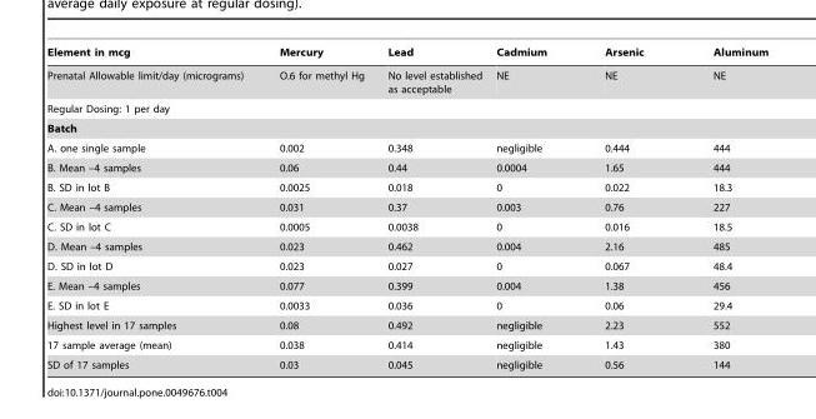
<table><thead><tr><td>Element in mcg</td><td>Mercury</td><td>Lead</td><td>Cadmium</td><td>Arsenic</td><td>Aluminum</td></tr></thead><tbody><tr><td>Prenatal Allowable limit/day (micrograms)</td><td>O.6 for methyl Hg</td><td>No level established as acceptable</td><td>NE</td><td>NE</td><td>NE</td></tr><tr><td colspan="6">Regular Dosing: 1 per day</td></tr><tr><td colspan="6">Batch</td></tr><tr><td>A. one single sample</td><td>0.002</td><td>0.348</td><td>negligible</td><td>0.444</td><td>444</td></tr><tr><td>B. Mean –4 samples</td><td>0.06</td><td>0.44</td><td>0.0004</td><td>1.65</td><td>444</td></tr><tr><td>B. SD in lot B</td><td>0.0025</td><td>0.018</td><td>0</td><td>0.022</td><td>18.3</td></tr><tr><td>C. Mean –4 samples</td><td>0.031</td><td>0.37</td><td>0.003</td><td>0.76</td><td>227</td></tr><tr><td>C. SD in lot C</td><td>0.0005</td><td>0.0038</td><td>0</td><td>0.016</td><td>18.5</td></tr><tr><td>D. Mean –4 samples</td><td>0.023</td><td>0.462</td><td>0.004</td><td>2.16</td><td>485</td></tr><tr><td>D. SD in lot D</td><td>0.023</td><td>0.027</td><td>0</td><td>0.067</td><td>48.4</td></tr><tr><td>E. Mean –4 samples</td><td>0.077</td><td>0.399</td><td>0.004</td><td>1.38</td><td>456</td></tr><tr><td>E. SD in lot E</td><td>0.0033</td><td>0.036</td><td>0</td><td>0.06</td><td>29.4</td></tr><tr><td>Highest level in 17 samples</td><td>0.08</td><td>0.492</td><td>negligible</td><td>2.23</td><td>552</td></tr><tr><td>17 sample average (mean)</td><td>0.038</td><td>0.414</td><td>negligible</td><td>1.43</td><td>380</td></tr><tr><td>SD of 17 samples</td><td>0.03</td><td>0.045</td><td>negligible</td><td>0.56</td><td>144</td></tr></tbody></table>